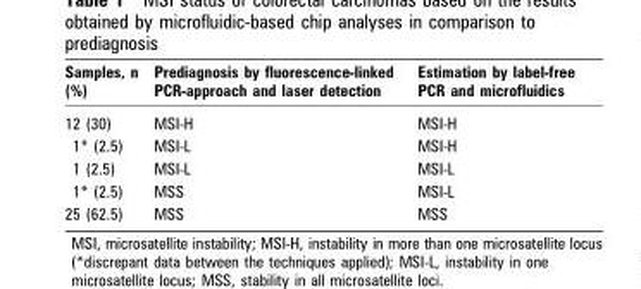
<table><thead><tr><td>Samples, n (%)</td><td>Prediagnosis by fluorescence-linked PCR-approach and laser detection</td><td>Estimation by label-free PCR and microfluidics</td></tr></thead><tbody><tr><td>12 (30)</td><td>MSI-H</td><td>MSI-H</td></tr><tr><td>1* (2.5)</td><td>MSI-L</td><td>MSI-H</td></tr><tr><td>1 (2.5)</td><td>MSI-L</td><td>MSI-L</td></tr><tr><td>1* (2.5)</td><td>MSS</td><td>MSI-L</td></tr><tr><td>25 (62.5)</td><td>MSS</td><td>MSS</td></tr></tbody></table>